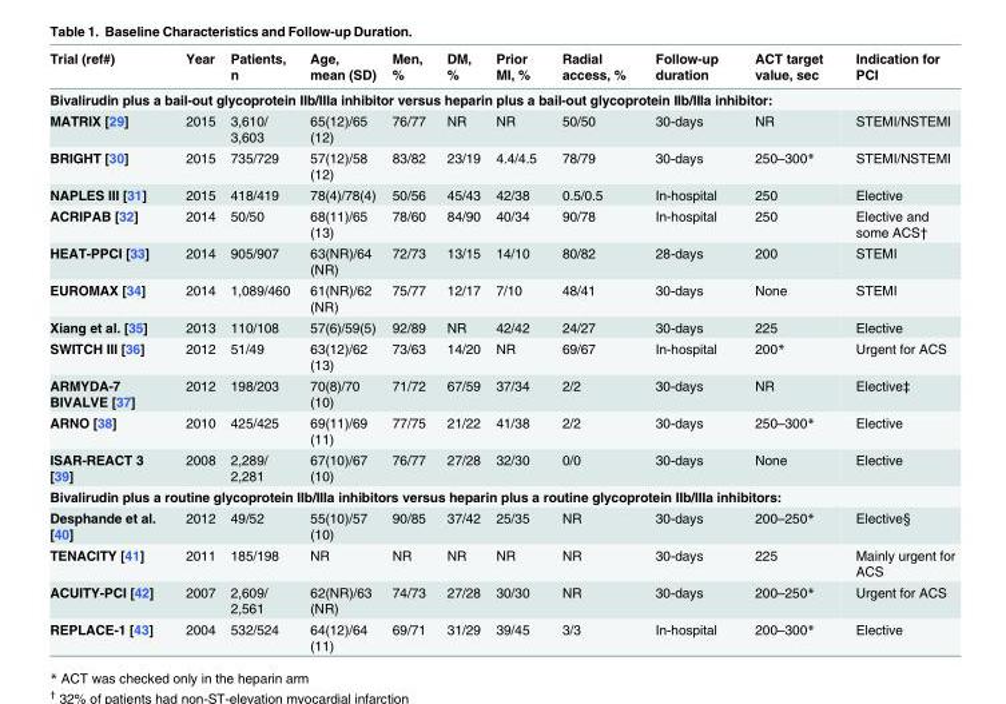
<table><thead><tr><td>Trial (ref#)</td><td>Year</td><td>Patients, n</td><td>Age, mean (SD)</td><td>Men, %</td><td>DM, %</td><td>Prior MI, %</td><td>Radial access, %</td><td>Follow-up duration</td><td>ACT target value, sec</td><td>Indication for PCI</td></tr></thead><tbody><tr><td colspan="11">Bivalirudin plus a bail-out glycoprotein IIb/IIIa inhibitor versus heparin plus a bail-out glycoprotein IIb/IIIa inhibitor:</td></tr><tr><td>MATRIX [29]</td><td>2015</td><td>3,610/ 3,603</td><td>65(12)/65 (12)</td><td>76/77</td><td>NR</td><td>NR</td><td>50/50</td><td>30-days</td><td>NR</td><td>STEMI/NSTEMI</td></tr><tr><td>BRIGHT [30]</td><td>2015</td><td>735/729</td><td>57(12)/58 (12)</td><td>83/82</td><td>23/19</td><td>4.4/4.5</td><td>78/79</td><td>30-days</td><td>250–300*</td><td>STEMI/NSTEMI</td></tr><tr><td>NAPLES III [31]</td><td>2015</td><td>418/419</td><td>78(4)/78(4)</td><td>50/56</td><td>45/43</td><td>42/38</td><td>0.5/0.5</td><td>In-hospital</td><td>250</td><td>Elective</td></tr><tr><td>ACRIPAB [32]</td><td>2014</td><td>50/50</td><td>68(11)/65 (13)</td><td>78/60</td><td>84/90</td><td>40/34</td><td>90/78</td><td>In-hospital</td><td>250</td><td>Elective and some ACS†</td></tr><tr><td>HEAT-PPCI [33]</td><td>2014</td><td>905/907</td><td>63(NR)/64 (NR)</td><td>72/73</td><td>13/15</td><td>14/10</td><td>80/82</td><td>28-days</td><td>200</td><td>STEMI</td></tr><tr><td>EUROMAX [34]</td><td>2014</td><td>1,089/460</td><td>61(NR)/62 (NR)</td><td>75/77</td><td>12/17</td><td>7/10</td><td>48/41</td><td>30-days</td><td>None</td><td>STEMI</td></tr><tr><td>Xiang et al. [35]</td><td>2013</td><td>110/108</td><td>57(6)/59(5)</td><td>92/89</td><td>NR</td><td>42/42</td><td>24/27</td><td>30-days</td><td>225</td><td>Elective</td></tr><tr><td>SWITCH III [36]</td><td>2012</td><td>51/49</td><td>63(12)/62 (13)</td><td>73/63</td><td>14/20</td><td>NR</td><td>69/67</td><td>In-hospital</td><td>200*</td><td>Urgent for ACS</td></tr><tr><td>ARMYDA-7 BIVALVE [37]</td><td>2012</td><td>198/203</td><td>70(8)/70 (10)</td><td>71/72</td><td>67/59</td><td>37/34</td><td>2/2</td><td>30-days</td><td>NR</td><td>Elective‡</td></tr><tr><td>ARNO [38]</td><td>2010</td><td>425/425</td><td>69(11)/69 (11)</td><td>77/75</td><td>21/22</td><td>41/38</td><td>2/2</td><td>30-days</td><td>250–300*</td><td>Elective</td></tr><tr><td>ISAR-REACT 3 [39]</td><td>2008</td><td>2,289/ 2,281</td><td>67(10)/67 (10)</td><td>76/77</td><td>27/28</td><td>32/30</td><td>0/0</td><td>30-days</td><td>None</td><td>Elective</td></tr><tr><td colspan="11">Bivalirudin plus a routine glycoprotein IIb/IIIa inhibitors versus heparin plus a routine glycoprotein IIb/IIIa inhibitors:</td></tr><tr><td>Desphande et al. [40]</td><td>2012</td><td>49/52</td><td>55(10)/57 (10)</td><td>90/85</td><td>37/42</td><td>25/35</td><td>NR</td><td>30-days</td><td>200–250*</td><td>Elective§</td></tr><tr><td>TENACITY [41]</td><td>2011</td><td>185/198</td><td>NR</td><td>NR</td><td>NR</td><td>NR</td><td>NR</td><td>30-days</td><td>225</td><td>Mainly urgent for ACS</td></tr><tr><td>ACUITY-PCI [42]</td><td>2007</td><td>2,609/ 2,561</td><td>62(NR)/63 (NR)</td><td>74/73</td><td>27/28</td><td>30/30</td><td>NR</td><td>30-days</td><td>200–250*</td><td>Urgent for ACS</td></tr><tr><td>REPLACE-1 [43]</td><td>2004</td><td>532/524</td><td>64(12)/64 (11)</td><td>69/71</td><td>31/29</td><td>39/45</td><td>3/3</td><td>In-hospital</td><td>200–300*</td><td>Elective</td></tr></tbody></table>